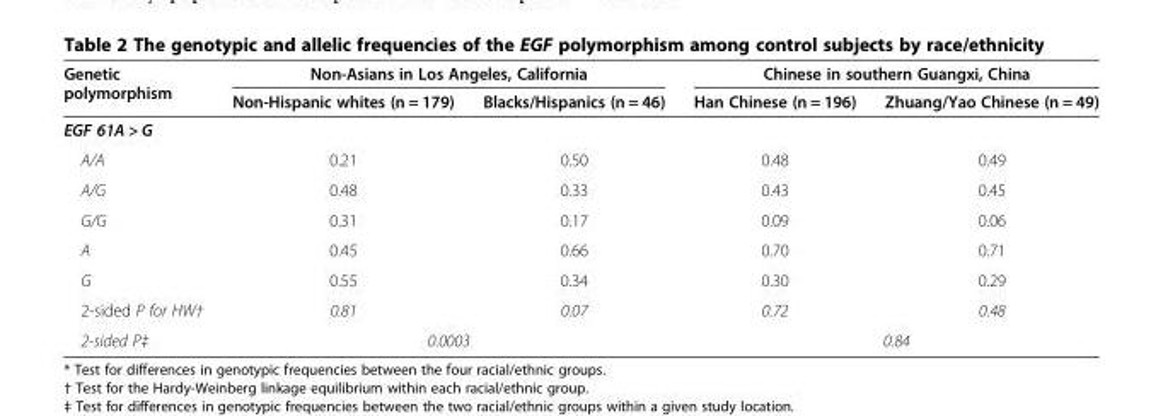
<table><thead><tr><td rowspan="2">Genetic polymorphism</td><td colspan="2">Non-Asians in Los Angeles, California</td><td colspan="2">Chinese in southern Guangxi, China</td></tr><tr><td>Non-Hispanic whites (n = 179)</td><td>Blacks/Hispanics (n = 46)</td><td>Han Chinese (n = 196)</td><td>Zhuang/Yao Chinese (n = 49)</td></tr></thead><tbody><tr><td colspan="5">EGF 61A &gt; G</td></tr><tr><td>A/A</td><td>0.21</td><td>0.50</td><td>0.48</td><td>0.49</td></tr><tr><td>A/G</td><td>0.48</td><td>0.33</td><td>0.43</td><td>0.45</td></tr><tr><td>G/G</td><td>0.31</td><td>0.17</td><td>0.09</td><td>0.06</td></tr><tr><td>A</td><td>0.45</td><td>0.66</td><td>0.70</td><td>0.71</td></tr><tr><td>G</td><td>0.55</td><td>0.34</td><td>0.30</td><td>0.29</td></tr><tr><td>2-sided P for HW†</td><td>0.81</td><td>0.07</td><td>0.72</td><td>0.48</td></tr><tr><td>2-sided P‡</td><td colspan="2">0.0003</td><td colspan="2">0.84</td></tr></tbody></table>